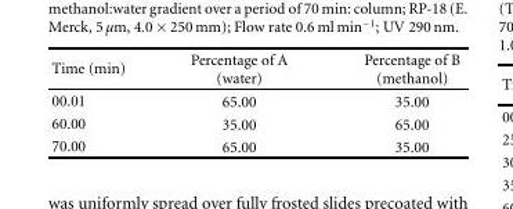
<table><thead><tr><td>Time (min)</td><td>Percentage of A (water)</td><td>Percentage of B (methanol)</td></tr></thead><tbody><tr><td>00.01</td><td>65.00</td><td>35.00</td></tr><tr><td>60.00</td><td>35.00</td><td>65.00</td></tr><tr><td>70.00</td><td>65.00</td><td>35.00</td></tr></tbody></table>